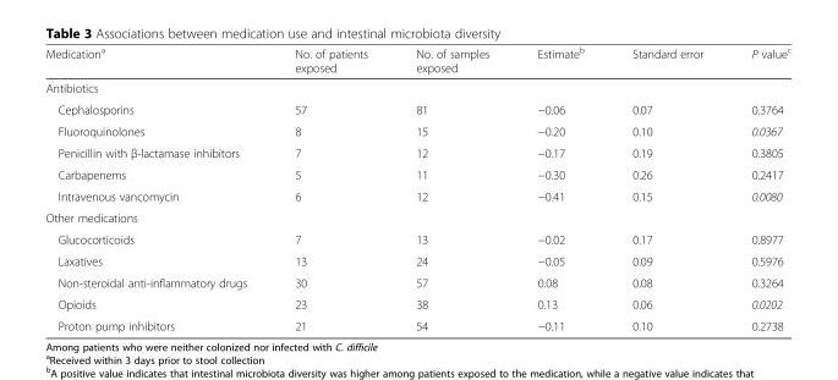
<table><thead><tr><td>Medication<sup>a</sup></td><td>No. of patients exposed</td><td>No. of samples exposed</td><td>Estimate<sup>b</sup></td><td>Standard error</td><td>P value<sup>c</sup></td></tr></thead><tbody><tr><td colspan="6">Antibiotics</td></tr><tr><td>Cephalosporins</td><td>57</td><td>81</td><td>−0.06</td><td>0.07</td><td>0.3764</td></tr><tr><td>Fluoroquinolones</td><td>8</td><td>15</td><td>−0.20</td><td>0.10</td><td>0.0367</td></tr><tr><td>Penicillin with β-lactamase inhibitors</td><td>7</td><td>12</td><td>−0.17</td><td>0.19</td><td>0.3805</td></tr><tr><td>Carbapenems</td><td>5</td><td>11</td><td>−0.30</td><td>0.26</td><td>0.2417</td></tr><tr><td>Intravenous vancomycin</td><td>6</td><td>12</td><td>−0.41</td><td>0.15</td><td>0.0080</td></tr><tr><td colspan="6">Other medications</td></tr><tr><td>Glucocorticoids</td><td>7</td><td>13</td><td>−0.02</td><td>0.17</td><td>0.8977</td></tr><tr><td>Laxatives</td><td>13</td><td>24</td><td>−0.05</td><td>0.09</td><td>0.5976</td></tr><tr><td>Non-steroidal anti-inflammatory drugs</td><td>30</td><td>57</td><td>0.08</td><td>0.08</td><td>0.3264</td></tr><tr><td>Opioids</td><td>23</td><td>38</td><td>0.13</td><td>0.06</td><td>0.0202</td></tr><tr><td>Proton pump inhibitors</td><td>21</td><td>54</td><td>−0.11</td><td>0.10</td><td>0.2738</td></tr></tbody></table>